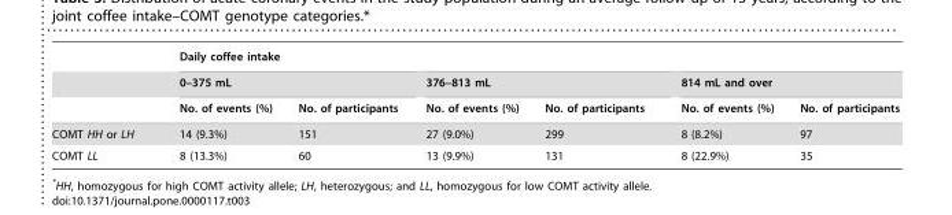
<table><thead><tr><td rowspan="3"></td><td colspan="6">Daily coffee intake</td></tr><tr><td colspan="2">0–375 mL</td><td colspan="2">376–813 mL</td><td colspan="2">814 mL and over</td></tr><tr><td>No. of events (%)</td><td>No. of participants</td><td>No. of events (%)</td><td>No. of participants</td><td>No. of events (%)</td><td>No. of participants</td></tr></thead><tbody><tr><td>COMT HH or LH</td><td>14 (9.3%)</td><td>151</td><td>27 (9.0%)</td><td>299</td><td>8 (8.2%)</td><td>97</td></tr><tr><td>COMT LL</td><td>8 (13.3%)</td><td>60</td><td>13 (9.9%)</td><td>131</td><td>8 (22.9%)</td><td>35</td></tr></tbody></table>